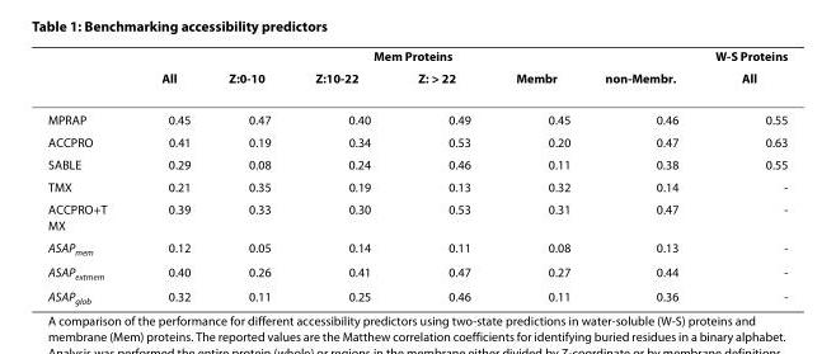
<table><thead><tr><td rowspan="2"></td><td colspan="6">Mem Proteins</td><td rowspan="2">W-S Proteins All</td></tr><tr><td>All</td><td>Z:0-10</td><td>Z:10-22</td><td>Z: &gt; 22</td><td>Membr</td><td>non-Membr.</td></tr></thead><tbody><tr><td>MPRAP</td><td>0.45</td><td>0.47</td><td>0.40</td><td>0.49</td><td>0.45</td><td>0.46</td><td>0.55</td></tr><tr><td>ACCPRO</td><td>0.41</td><td>0.19</td><td>0.34</td><td>0.53</td><td>0.20</td><td>0.47</td><td>0.63</td></tr><tr><td>SABLE</td><td>0.29</td><td>0.08</td><td>0.24</td><td>0.46</td><td>0.11</td><td>0.38</td><td>0.55</td></tr><tr><td>TMX</td><td>0.21</td><td>0.35</td><td>0.19</td><td>0.13</td><td>0.32</td><td>0.14</td><td>-</td></tr><tr><td>ACCPRO+T MX</td><td>0.39</td><td>0.33</td><td>0.30</td><td>0.53</td><td>0.31</td><td>0.47</td><td>-</td></tr><tr><td>ASAP<sub>mem</sub></td><td>0.12</td><td>0.05</td><td>0.14</td><td>0.11</td><td>0.08</td><td>0.13</td><td>-</td></tr><tr><td>ASAP<sub>extmem</sub></td><td>0.40</td><td>0.26</td><td>0.41</td><td>0.47</td><td>0.27</td><td>0.44</td><td>-</td></tr><tr><td>ASAP<sub>glob</sub></td><td>0.32</td><td>0.11</td><td>0.25</td><td>0.46</td><td>0.11</td><td>0.36</td><td>-</td></tr></tbody></table>